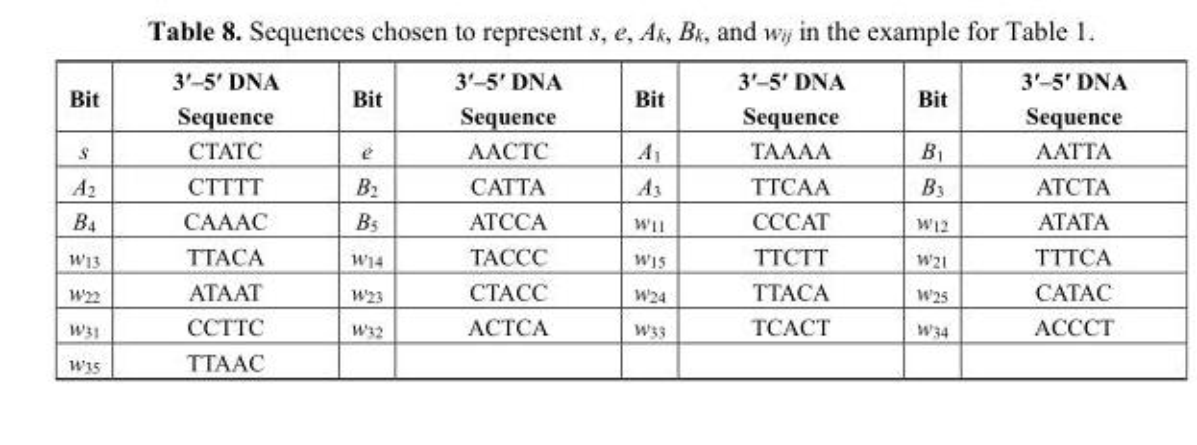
<table><thead><tr><td>Bit</td><td>3′–5′ DNA Sequence</td><td>Bit</td><td>3′–5′ DNA Sequence</td><td>Bit</td><td>3′–5′ DNA Sequence</td><td>Bit</td><td>3′–5′ DNA Sequence</td></tr></thead><tbody><tr><td>s</td><td>CTATC</td><td>e</td><td>AACTC</td><td>A<sub>1</sub></td><td>TAAAA</td><td>B<sub>1</sub></td><td>AATTA</td></tr><tr><td>A<sub>2</sub></td><td>CTTTT</td><td>B<sub>2</sub></td><td>CATTA</td><td>A<sub>3</sub></td><td>TTCAA</td><td>B<sub>3</sub></td><td>ATCTA</td></tr><tr><td>B<sub>4</sub></td><td>CAAAC</td><td>B<sub>5</sub></td><td>ATCCA</td><td>w<sub>11</sub></td><td>CCCAT</td><td>w<sub>12</sub></td><td>ATATA</td></tr><tr><td>w<sub>13</sub></td><td>TTACA</td><td>w<sub>14</sub></td><td>TACCC</td><td>w<sub>15</sub></td><td>TTCTT</td><td>w<sub>21</sub></td><td>TTTCA</td></tr><tr><td>w<sub>22</sub></td><td>ATAAT</td><td>w<sub>23</sub></td><td>CTACC</td><td>w<sub>24</sub></td><td>TTACA</td><td>w<sub>25</sub></td><td>CATAC</td></tr><tr><td>w<sub>31</sub></td><td>CCTTC</td><td>w<sub>32</sub></td><td>ACTCA</td><td>w<sub>33</sub></td><td>TCACT</td><td>w<sub>34</sub></td><td>ACCCT</td></tr><tr><td>w<sub>35</sub></td><td>TTAAC</td><td></td><td></td><td></td><td></td><td></td><td></td></tr></tbody></table>